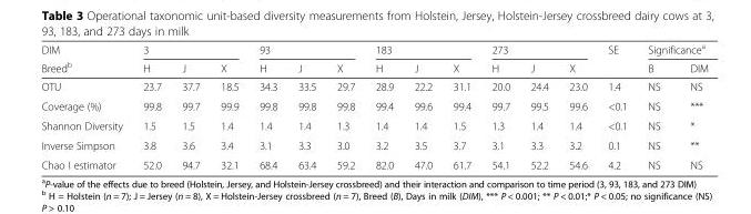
<table><thead><tr><td rowspan="2">DIM Breedb</td><td colspan="3">3</td><td colspan="3">93</td><td colspan="3">183</td><td colspan="3">273</td><td rowspan="2">SE</td><td colspan="2">Significance<sup>a</sup></td></tr><tr><td>H</td><td>J</td><td>X</td><td>H</td><td>J</td><td>X</td><td>H</td><td>J</td><td>X</td><td>H</td><td>J</td><td>X</td><td>B</td><td>DIM</td></tr></thead><tbody><tr><td>OTU</td><td>23.7</td><td>37.7</td><td>18.5</td><td>34.3</td><td>33.5</td><td>29.7</td><td>28.9</td><td>22.2</td><td>31.1</td><td>20.0</td><td>24.4</td><td>23.0</td><td>1.4</td><td>NS</td><td>NS</td></tr><tr><td>Coverage (%)</td><td>99.8</td><td>99.7</td><td>99.9</td><td>99.8</td><td>99.8</td><td>99.8</td><td>99.4</td><td>99.6</td><td>99.4</td><td>99.7</td><td>99.5</td><td>99.6</td><td>&lt;0.1</td><td>NS</td><td>***</td></tr><tr><td>Shannon Diversity</td><td>1.5</td><td>1.5</td><td>1.4</td><td>1.4</td><td>1.4</td><td>1.3</td><td>1.4</td><td>1.4</td><td>1.5</td><td>1.3</td><td>1.4</td><td>1.4</td><td>&lt;0.1</td><td>NS</td><td>*</td></tr><tr><td>Inverse Simpson</td><td>3.8</td><td>3.6</td><td>3.4</td><td>3.1</td><td>3.3</td><td>3.0</td><td>3.2</td><td>3.5</td><td>3.7</td><td>3.1</td><td>3.3</td><td>3.2</td><td>0.1</td><td>NS</td><td>**</td></tr><tr><td>Chao I estimator</td><td>52.0</td><td>94.7</td><td>32.1</td><td>68.4</td><td>63.4</td><td>59.2</td><td>82.0</td><td>47.0</td><td>61.7</td><td>54.1</td><td>52.2</td><td>54.6</td><td>4.2</td><td>NS</td><td>NS</td></tr></tbody></table>